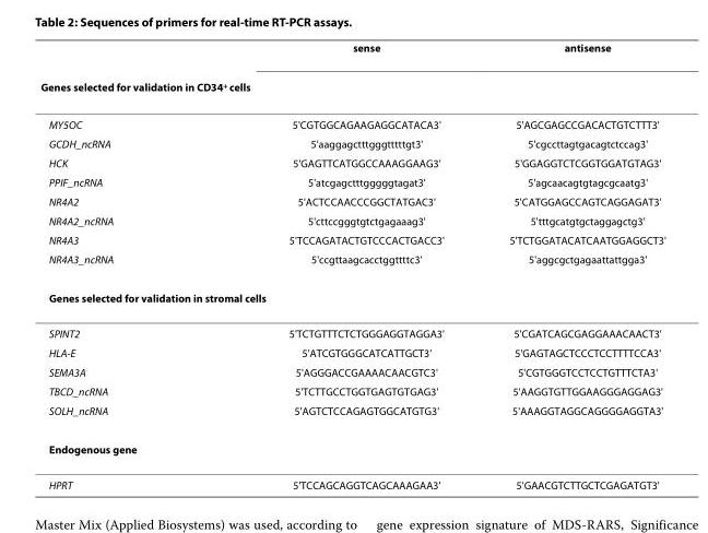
<table><thead><tr><td></td><td>sense</td><td>antisense</td></tr><tr><td colspan="3">Genes selected for validation in CD34<sup>+</sup> cells</td></tr></thead><tbody><tr><td>MY5OC</td><td>5&#x27;CGTGGCAGAAGAGGCATACA3&#x27;</td><td>5&#x27;AGCGAGCCGACACTGTCTTT3&#x27;</td></tr><tr><td>GCDH_ncRNA</td><td>5&#x27;aaggagctttgggtttttgt3&#x27;</td><td>5&#x27;cgccttagtgacagtctccag3&#x27;</td></tr><tr><td>HCK</td><td>5&#x27;GAGTTCATGGCCAAAGGAAG3&#x27;</td><td>5&#x27;GGAGGTCTCGGTGGATGTAG3&#x27;</td></tr><tr><td>PPIF_ncRNA</td><td>5&#x27;atcgagctttgggggtagat3&#x27;</td><td>5&#x27;agcaacagtgtagcgcaatg3&#x27;</td></tr><tr><td>NR4A2</td><td>5&#x27;ACTCCAACCCGGCTATGAC3&#x27;</td><td>5&#x27;CATGGAGCCAGTCAGGAGAT3&#x27;</td></tr><tr><td>NR4A2_ncRNA</td><td>5&#x27;cttccgggtgtctgagaaag3&#x27;</td><td>5&#x27;tttgcatgtgctaggagctg3&#x27;</td></tr><tr><td>NR4A3</td><td>5&#x27;TCCAGATACTGTCCCACTGACC3&#x27;</td><td>5&#x27;TCTGGATACATCAATGGAGGCT3&#x27;</td></tr><tr><td>NR4A3_ncRNA</td><td>5&#x27;ccgttaagcacctggttttc3&#x27;</td><td>5&#x27;aggcgctgagaattattgga3&#x27;</td></tr><tr><td colspan="3">Genes selected for validation in stromal cells</td></tr><tr><td>SPINT2</td><td>5&#x27;TCTGTTTCTCTGGGAGGTAGGA3&#x27;</td><td>5&#x27;CGATCAGCGAGGAAACAACT3&#x27;</td></tr><tr><td>HLA-E</td><td>5&#x27;ATCGTGGGCATCATTGCT3&#x27;</td><td>5&#x27;GAGTAGCTCCCTCCTTTTCCA3&#x27;</td></tr><tr><td>SEMA3A</td><td>5&#x27;AGGGACCGAAAACAACGTC3&#x27;</td><td>5&#x27;CGTGGGTCCTCCTGTTTCTA3&#x27;</td></tr><tr><td>TBCD_ncRNA</td><td>5&#x27;TCTTGCCTGGTGAGTGTGAG3&#x27;</td><td>5&#x27;AAGGTGTTGGAAGGGAGGAG3&#x27;</td></tr><tr><td>SOLH_ncRNA</td><td>5&#x27;AGTCTCCAGAGTGGCATGTG3&#x27;</td><td>5&#x27;AAAGGTAGGCAGGGGAGGTA3&#x27;</td></tr><tr><td colspan="3">Endogenous gene</td></tr><tr><td>HPRT</td><td>5&#x27;TCCAGCAGGTCAGCAAAGAA3&#x27;</td><td>5&#x27;GAACGTCTTGCTCGAGATGT3&#x27;</td></tr></tbody></table>